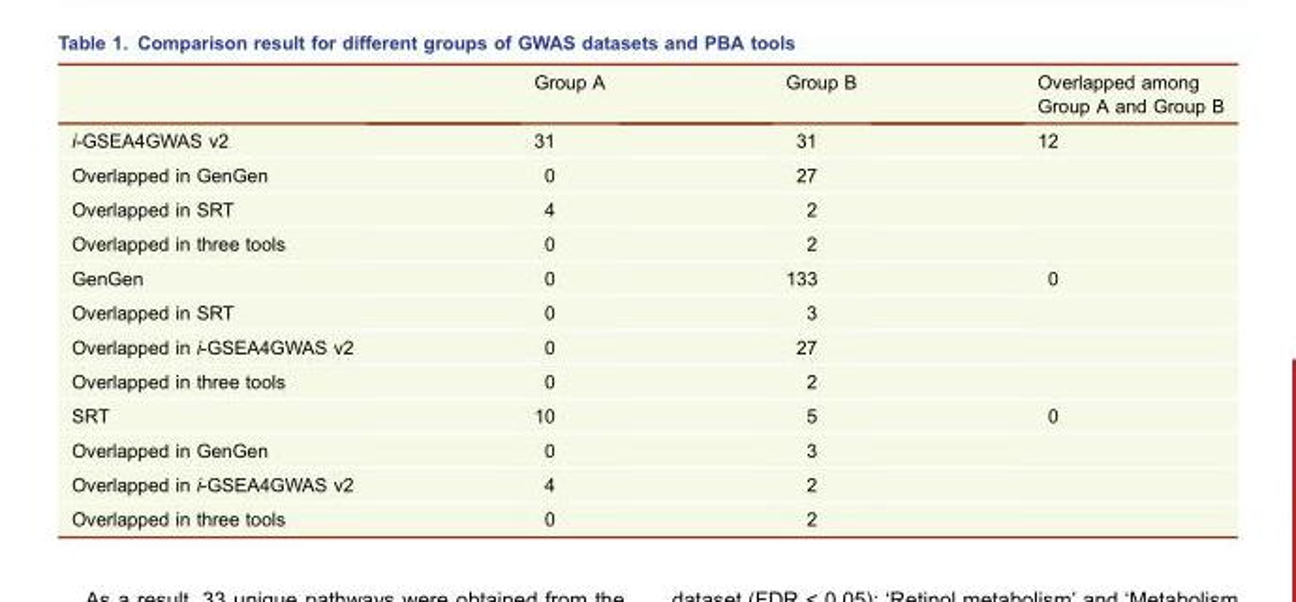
<table><thead><tr><td></td><td>Group A</td><td>Group B</td><td>Overlapped among Group A and Group B</td></tr></thead><tbody><tr><td>i-GSEA4GWAS v2</td><td>31</td><td>31</td><td>12</td></tr><tr><td>Overlapped in GenGen</td><td>0</td><td>27</td><td></td></tr><tr><td>Overlapped in SRT</td><td>4</td><td>2</td><td></td></tr><tr><td>Overlapped in three tools</td><td>0</td><td>2</td><td></td></tr><tr><td>GenGen</td><td>0</td><td>133</td><td>0</td></tr><tr><td>Overlapped in SRT</td><td>0</td><td>3</td><td></td></tr><tr><td>Overlapped in i-GSEA4GWAS v2</td><td>0</td><td>27</td><td></td></tr><tr><td>Overlapped in three tools</td><td>0</td><td>2</td><td></td></tr><tr><td>SRT</td><td>10</td><td>5</td><td>0</td></tr><tr><td>Overlapped in GenGen</td><td>0</td><td>3</td><td></td></tr><tr><td>Overlapped in i-GSEA4GWAS v2</td><td>4</td><td>2</td><td></td></tr><tr><td>Overlapped in three tools</td><td>0</td><td>2</td><td></td></tr></tbody></table>